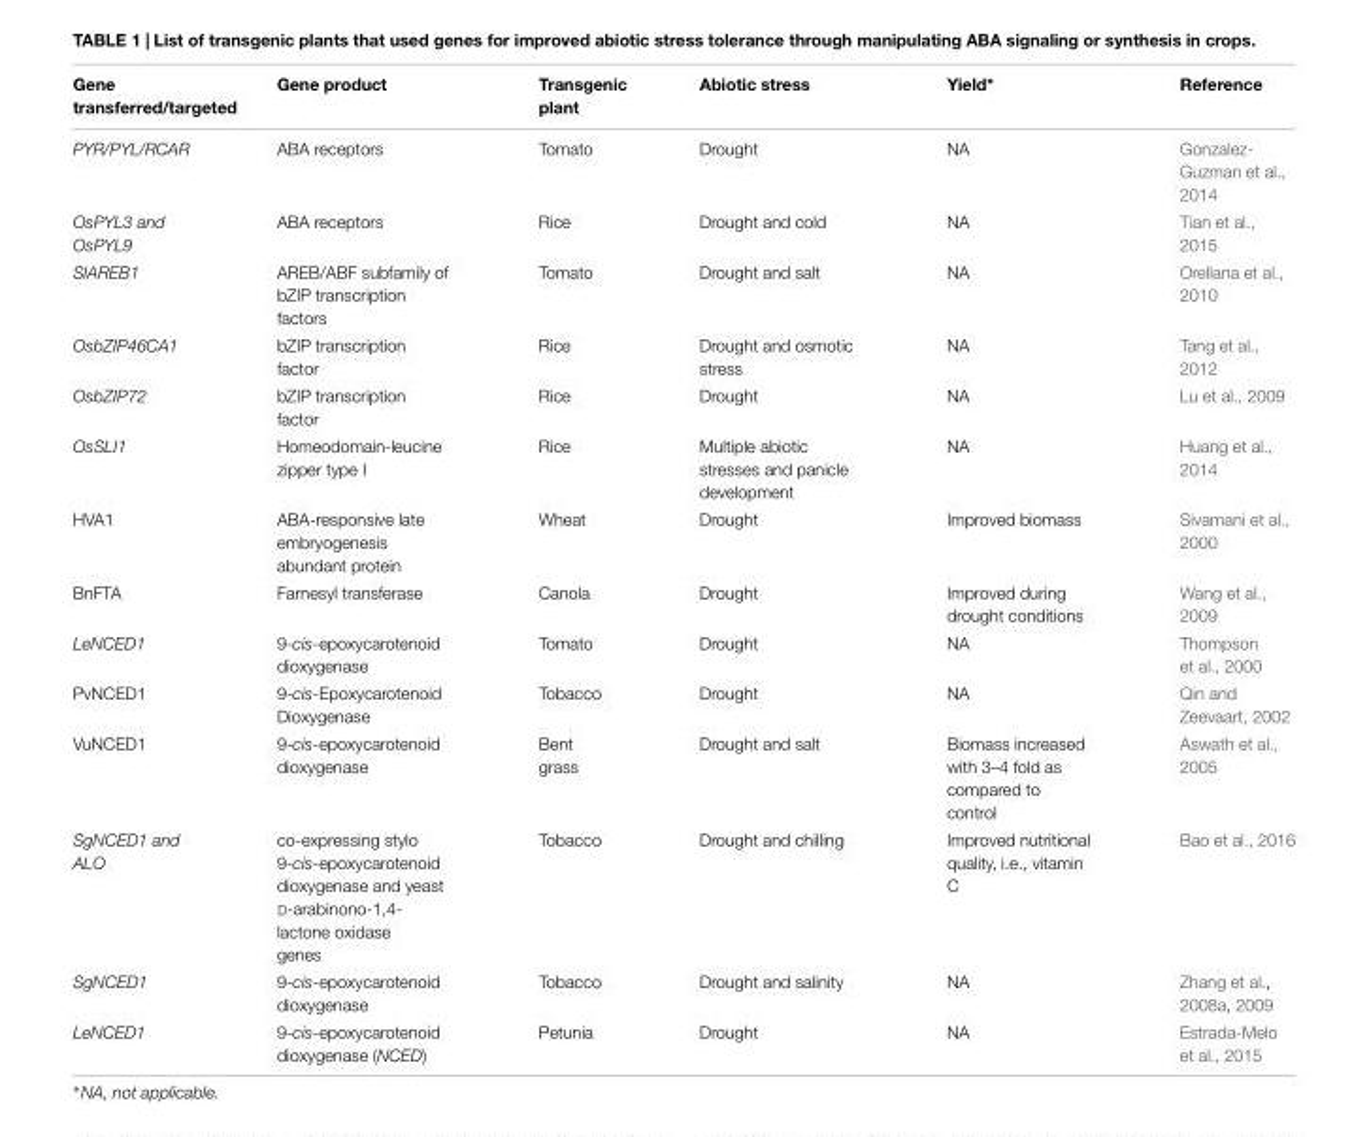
<table><thead><tr><td>Gene transferred/targeted</td><td>Gene product</td><td>Transgenic plant</td><td>Abiotic stress</td><td>Yield∗</td><td>Reference</td></tr></thead><tbody><tr><td>PYR/PYL/RCAR</td><td>ABA receptors</td><td>Tomato</td><td>Drought</td><td>NA</td><td>Gonzalez- Guzman et al., 2014</td></tr><tr><td>OsPYL3 and OsPYL9</td><td>ABA receptors</td><td>Rice</td><td>Drought and cold</td><td>NA</td><td>Tian et al., 2015</td></tr><tr><td>SIAREB1</td><td>AREB/ABF subfamily of bZIP transcription factors</td><td>Tomato</td><td>Drought and salt</td><td>NA</td><td>Orellana et al., 2010</td></tr><tr><td>OsbZIP46CA1</td><td>bZIP transcription factor</td><td>Rice</td><td>Drought and osmotic stress</td><td>NA</td><td>Tang et al., 2012</td></tr><tr><td>OsbZIP72</td><td>bZIP transcription factor</td><td>Rice</td><td>Drought</td><td>NA</td><td>Lu et al., 2009</td></tr><tr><td>OsSLI1</td><td>Homeodomain-leucine zipper type I</td><td>Rice</td><td>Multiple abiotic stresses and panicle development</td><td>NA</td><td>Huang et al., 2014</td></tr><tr><td>HVA1</td><td>ABA-responsive late embryogenesis abundant protein</td><td>Wheat</td><td>Drought</td><td>Improved biomass</td><td>Sivamani et al., 2000</td></tr><tr><td>BnFTA</td><td>Farnesyl transferase</td><td>Canola</td><td>Drought</td><td>Improved during drought conditions</td><td>Wang et al., 2009</td></tr><tr><td>LeNCED1</td><td>9-cis-epoxycarotenoid dioxygenase</td><td>Tomato</td><td>Drought</td><td>NA</td><td>Thompson et al., 2000</td></tr><tr><td>PvNCED1</td><td>9-cis-Epoxycarotenoid Dioxygenase</td><td>Tobacco</td><td>Drought</td><td>NA</td><td>Qin and Zeevaart, 2002</td></tr><tr><td>VuNCED1</td><td>9-cis-epoxycarotenoid dioxygenase</td><td>Bent grass</td><td>Drought and salt</td><td>Biomass increased with 3–4 fold as compared to control</td><td>Aswath et al., 2005</td></tr><tr><td>SgNCED1 and ALO</td><td>co-expressing stylo 9-cis-epoxycarotenoid dioxygenase and yeast D-arabinono-1,4- lactone oxidase genes</td><td>Tobacco</td><td>Drought and chilling</td><td>Improved nutritional quality, i.e., vitamin C</td><td>Bao et al., 2016</td></tr><tr><td>SgNCED1</td><td>9-cis-epoxycarotenoid dioxygenase</td><td>Tobacco</td><td>Drought and salinity</td><td>NA</td><td>Zhang et al., 2008a, 2009</td></tr><tr><td>LeNCED1</td><td>9-cis-epoxycarotenoid dioxygenase (NCED)</td><td>Petunia</td><td>Drought</td><td>NA</td><td>Estrada-Melo et al., 2015</td></tr></tbody></table>